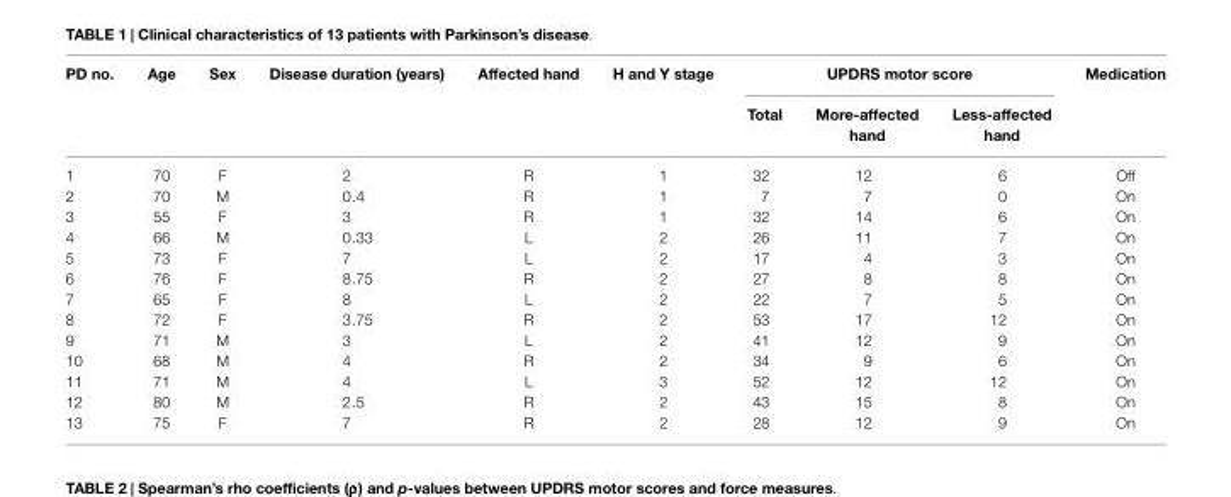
<table><thead><tr><td rowspan="2">PD no.</td><td rowspan="2">Age</td><td rowspan="2">Sex</td><td rowspan="2">Disease duration (years)</td><td rowspan="2">Affected hand</td><td rowspan="2">H and Y stage</td><td colspan="3">UPDRS motor score</td><td rowspan="2">Medication</td></tr><tr><td>Total</td><td>More-affected hand</td><td>Less-affected hand</td></tr></thead><tbody><tr><td>1</td><td>70</td><td>F</td><td>2</td><td>R</td><td>1</td><td>32</td><td>12</td><td>6</td><td>Off</td></tr><tr><td>2</td><td>70</td><td>M</td><td>0.4</td><td>R</td><td>1</td><td>7</td><td>7</td><td>0</td><td>On</td></tr><tr><td>3</td><td>55</td><td>F</td><td>3</td><td>R</td><td>1</td><td>32</td><td>14</td><td>6</td><td>On</td></tr><tr><td>4</td><td>66</td><td>M</td><td>0.33</td><td>L</td><td>2</td><td>26</td><td>11</td><td>7</td><td>On</td></tr><tr><td>5</td><td>73</td><td>F</td><td>7</td><td>L</td><td>2</td><td>17</td><td>4</td><td>3</td><td>On</td></tr><tr><td>6</td><td>76</td><td>F</td><td>8.75</td><td>R</td><td>2</td><td>27</td><td>8</td><td>8</td><td>On</td></tr><tr><td>7</td><td>65</td><td>F</td><td>8</td><td>L</td><td>2</td><td>22</td><td>7</td><td>5</td><td>On</td></tr><tr><td>8</td><td>72</td><td>F</td><td>3.75</td><td>R</td><td>2</td><td>53</td><td>17</td><td>12</td><td>On</td></tr><tr><td>9</td><td>71</td><td>M</td><td>3</td><td>L</td><td>2</td><td>41</td><td>12</td><td>9</td><td>On</td></tr><tr><td>10</td><td>68</td><td>M</td><td>4</td><td>R</td><td>2</td><td>34</td><td>9</td><td>6</td><td>On</td></tr><tr><td>11</td><td>71</td><td>M</td><td>4</td><td>L</td><td>3</td><td>52</td><td>12</td><td>12</td><td>On</td></tr><tr><td>12</td><td>80</td><td>M</td><td>2.5</td><td>R</td><td>2</td><td>43</td><td>15</td><td>8</td><td>On</td></tr><tr><td>13</td><td>75</td><td>F</td><td>7</td><td>R</td><td>2</td><td>28</td><td>12</td><td>9</td><td>On</td></tr></tbody></table>